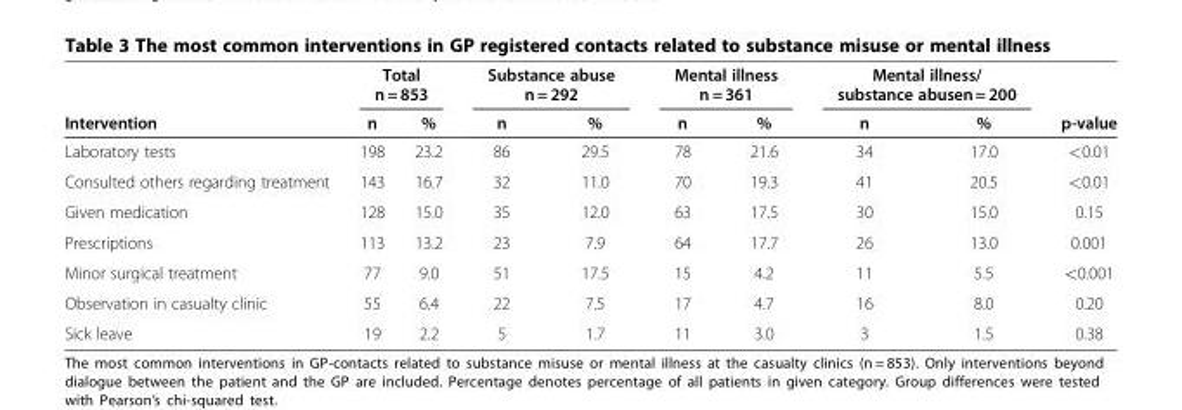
<table><thead><tr><td rowspan="2">Intervention</td><td colspan="2">Total n = 853</td><td colspan="2">Substance abuse n = 292</td><td colspan="2">Mental illness n = 361</td><td colspan="2">Mental illness/ substance abusen = 200</td><td rowspan="2">p-value</td></tr><tr><td>n</td><td>%</td><td>n</td><td>%</td><td>n</td><td>%</td><td>n</td><td>%</td></tr></thead><tbody><tr><td>Laboratory tests</td><td>198</td><td>23.2</td><td>86</td><td>29.5</td><td>78</td><td>21.6</td><td>34</td><td>17.0</td><td>&lt;0.01</td></tr><tr><td>Consulted others regarding treatment</td><td>143</td><td>16.7</td><td>32</td><td>11.0</td><td>70</td><td>19.3</td><td>41</td><td>20.5</td><td>&lt;0.01</td></tr><tr><td>Given medication</td><td>128</td><td>15.0</td><td>35</td><td>12.0</td><td>63</td><td>17.5</td><td>30</td><td>15.0</td><td>0.15</td></tr><tr><td>Prescriptions</td><td>113</td><td>13.2</td><td>23</td><td>7.9</td><td>64</td><td>17.7</td><td>26</td><td>13.0</td><td>0.001</td></tr><tr><td>Minor surgical treatment</td><td>77</td><td>9.0</td><td>51</td><td>17.5</td><td>15</td><td>4.2</td><td>11</td><td>5.5</td><td>&lt;0.001</td></tr><tr><td>Observation in casualty clinic</td><td>55</td><td>6.4</td><td>22</td><td>7.5</td><td>17</td><td>4.7</td><td>16</td><td>8.0</td><td>0.20</td></tr><tr><td>Sick leave</td><td>19</td><td>2.2</td><td>5</td><td>1.7</td><td>11</td><td>3.0</td><td>3</td><td>1.5</td><td>0.38</td></tr></tbody></table>